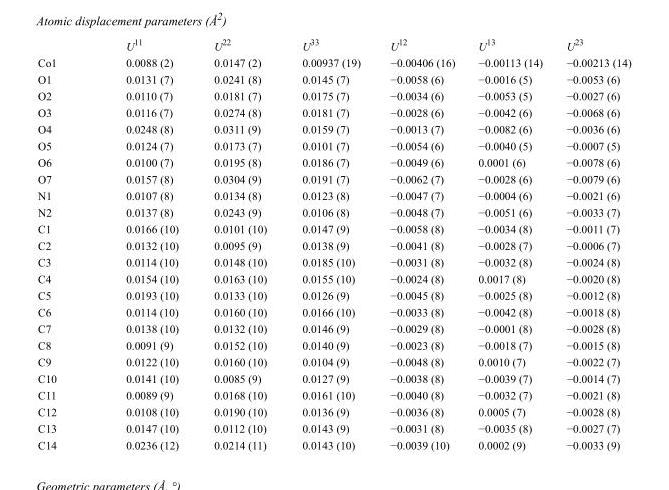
<table><thead><tr><td></td><td>U<sup>11</sup></td><td>U<sup>22</sup></td><td>U<sup>33</sup></td><td>U<sup>12</sup></td><td>U<sup>13</sup></td><td>U<sup>23</sup></td></tr></thead><tbody><tr><td>Co1</td><td>0.0088 (2)</td><td>0.0147 (2)</td><td>0.00937 (19)</td><td>−0.00406 (16)</td><td>−0.00113 (14)</td><td>−0.00213 (14)</td></tr><tr><td>O1</td><td>0.0131 (7)</td><td>0.0241 (8)</td><td>0.0145 (7)</td><td>−0.0058 (6)</td><td>−0.0016 (5)</td><td>−0.0053 (6)</td></tr><tr><td>O2</td><td>0.0110 (7)</td><td>0.0181 (7)</td><td>0.0175 (7)</td><td>−0.0034 (6)</td><td>−0.0053 (5)</td><td>−0.0027 (6)</td></tr><tr><td>O3</td><td>0.0116 (7)</td><td>0.0274 (8)</td><td>0.0181 (7)</td><td>−0.0028 (6)</td><td>−0.0042 (6)</td><td>−0.0068 (6)</td></tr><tr><td>O4</td><td>0.0248 (8)</td><td>0.0311 (9)</td><td>0.0159 (7)</td><td>−0.0013 (7)</td><td>−0.0082 (6)</td><td>−0.0036 (6)</td></tr><tr><td>O5</td><td>0.0124 (7)</td><td>0.0173 (7)</td><td>0.0101 (7)</td><td>−0.0054 (6)</td><td>−0.0040 (5)</td><td>−0.0007 (5)</td></tr><tr><td>O6</td><td>0.0100 (7)</td><td>0.0195 (8)</td><td>0.0186 (7)</td><td>−0.0049 (6)</td><td>0.0001 (6)</td><td>−0.0078 (6)</td></tr><tr><td>O7</td><td>0.0157 (8)</td><td>0.0304 (9)</td><td>0.0191 (7)</td><td>−0.0062 (7)</td><td>−0.0028 (6)</td><td>−0.0079 (6)</td></tr><tr><td>N1</td><td>0.0107 (8)</td><td>0.0134 (8)</td><td>0.0123 (8)</td><td>−0.0047 (7)</td><td>−0.0004 (6)</td><td>−0.0021 (6)</td></tr><tr><td>N2</td><td>0.0137 (8)</td><td>0.0243 (9)</td><td>0.0106 (8)</td><td>−0.0048 (7)</td><td>−0.0051 (6)</td><td>−0.0033 (7)</td></tr><tr><td>C1</td><td>0.0166 (10)</td><td>0.0101 (10)</td><td>0.0147 (9)</td><td>−0.0058 (8)</td><td>−0.0034 (8)</td><td>−0.0011 (7)</td></tr><tr><td>C2</td><td>0.0132 (10)</td><td>0.0095 (9)</td><td>0.0138 (9)</td><td>−0.0041 (8)</td><td>−0.0028 (7)</td><td>−0.0006 (7)</td></tr><tr><td>C3</td><td>0.0114 (10)</td><td>0.0148 (10)</td><td>0.0185 (10)</td><td>−0.0031 (8)</td><td>−0.0032 (8)</td><td>−0.0024 (8)</td></tr><tr><td>C4</td><td>0.0154 (10)</td><td>0.0163 (10)</td><td>0.0155 (10)</td><td>−0.0024 (8)</td><td>0.0017 (8)</td><td>−0.0020 (8)</td></tr><tr><td>C5</td><td>0.0193 (10)</td><td>0.0133 (10)</td><td>0.0126 (9)</td><td>−0.0045 (8)</td><td>−0.0025 (8)</td><td>−0.0012 (8)</td></tr><tr><td>C6</td><td>0.0114 (10)</td><td>0.0160 (10)</td><td>0.0166 (10)</td><td>−0.0033 (8)</td><td>−0.0042 (8)</td><td>−0.0018 (8)</td></tr><tr><td>C7</td><td>0.0138 (10)</td><td>0.0132 (10)</td><td>0.0146 (9)</td><td>−0.0029 (8)</td><td>−0.0001 (8)</td><td>−0.0028 (8)</td></tr><tr><td>C8</td><td>0.0091 (9)</td><td>0.0152 (10)</td><td>0.0140 (9)</td><td>−0.0023 (8)</td><td>−0.0018 (7)</td><td>−0.0015 (8)</td></tr><tr><td>C9</td><td>0.0122 (10)</td><td>0.0160 (10)</td><td>0.0104 (9)</td><td>−0.0048 (8)</td><td>0.0010 (7)</td><td>−0.0022 (7)</td></tr><tr><td>C10</td><td>0.0141 (10)</td><td>0.0085 (9)</td><td>0.0127 (9)</td><td>−0.0038 (8)</td><td>−0.0039 (7)</td><td>−0.0014 (7)</td></tr><tr><td>C11</td><td>0.0089 (9)</td><td>0.0168 (10)</td><td>0.0161 (10)</td><td>−0.0040 (8)</td><td>−0.0032 (7)</td><td>−0.0021 (8)</td></tr><tr><td>C12</td><td>0.0108 (10)</td><td>0.0190 (10)</td><td>0.0136 (9)</td><td>−0.0036 (8)</td><td>0.0005 (7)</td><td>−0.0028 (8)</td></tr><tr><td>C13</td><td>0.0147 (10)</td><td>0.0112 (10)</td><td>0.0143 (9)</td><td>−0.0031 (8)</td><td>−0.0035 (8)</td><td>−0.0027 (7)</td></tr><tr><td>C14</td><td>0.0236 (12)</td><td>0.0214 (11)</td><td>0.0143 (10)</td><td>−0.0039 (10)</td><td>0.0002 (9)</td><td>−0.0033 (9)</td></tr></tbody></table>